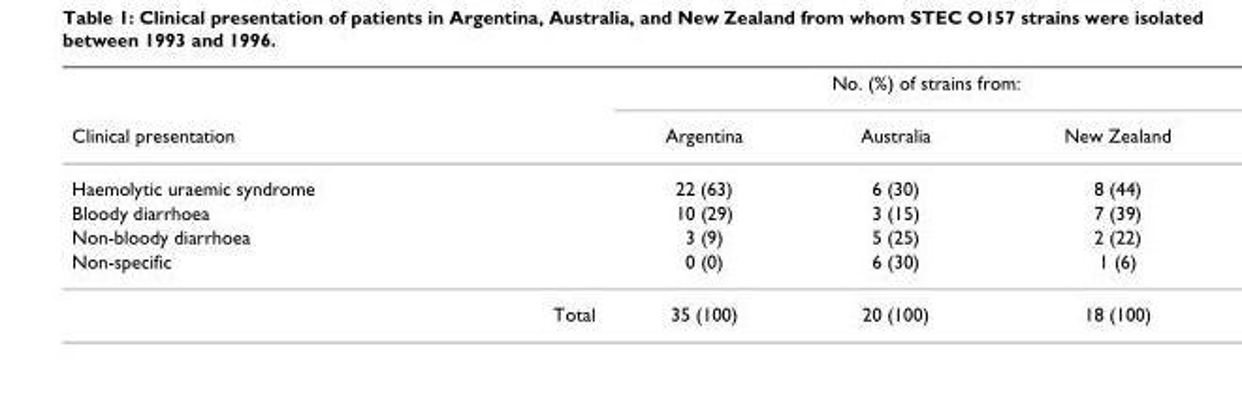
<table><thead><tr><td rowspan="2">Clinical presentation</td><td colspan="3">No. (%) of strains from:</td></tr><tr><td>Argentina</td><td>Australia</td><td>New Zealand</td></tr></thead><tbody><tr><td>Haemolytic uraemic syndrome</td><td>22 (63)</td><td>6 (30)</td><td>8 (44)</td></tr><tr><td>Bloody diarrhoea</td><td>10 (29)</td><td>3 (15)</td><td>7 (39)</td></tr><tr><td>Non-bloody diarrhoea</td><td>3 (9)</td><td>5 (25)</td><td>2 (22)</td></tr><tr><td>Non-specific</td><td>0 (0)</td><td>6 (30)</td><td>1 (6)</td></tr><tr><td>Total</td><td>35 (100)</td><td>20 (100)</td><td>18 (100)</td></tr></tbody></table>